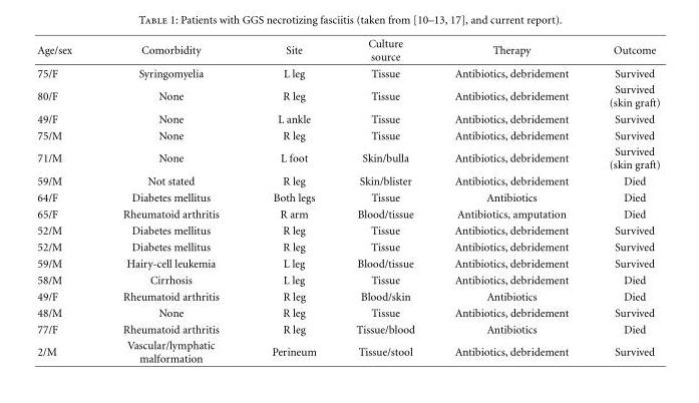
<table><thead><tr><td>Age/sex</td><td>Comorbidity</td><td>Site</td><td>Culture source</td><td>Therapy</td><td>Outcome</td></tr></thead><tbody><tr><td>75/F</td><td>Syringomyelia</td><td>L leg</td><td>Tissue</td><td>Antibiotics, debridement</td><td>Survived</td></tr><tr><td>80/F</td><td>None</td><td>R leg</td><td>Tissue</td><td>Antibiotics, debridement</td><td>Survived (skin graft)</td></tr><tr><td>49/F</td><td>None</td><td>L ankle</td><td>Tissue</td><td>Antibiotics, debridement</td><td>Survived</td></tr><tr><td>75/M</td><td>None</td><td>R leg</td><td>Tissue</td><td>Antibiotics, debridement</td><td>Survived</td></tr><tr><td>71/M</td><td>None</td><td>L foot</td><td>Skin/bulla</td><td>Antibiotics, debridement</td><td>Survived (skin graft)</td></tr><tr><td>59/M</td><td>Not stated</td><td>R leg</td><td>Skin/blister</td><td>Antibiotics, debridement</td><td>Died</td></tr><tr><td>64/F</td><td>Diabetes mellitus</td><td>Both legs</td><td>Tissue</td><td>Antibiotics</td><td>Died</td></tr><tr><td>65/F</td><td>Rheumatoid arthritis</td><td>R arm</td><td>Blood/tissue</td><td>Antibiotics, amputation</td><td>Died</td></tr><tr><td>52/M</td><td>Diabetes mellitus</td><td>R leg</td><td>Tissue</td><td>Antibiotics, debridement</td><td>Survived</td></tr><tr><td>52/M</td><td>Diabetes mellitus</td><td>R leg</td><td>Tissue</td><td>Antibiotics, debridement</td><td>Survived</td></tr><tr><td>59/M</td><td>Hairy-cell leukemia</td><td>L leg</td><td>Blood/tissue</td><td>Antibiotics, debridement</td><td>Survived</td></tr><tr><td>58/M</td><td>Cirrhosis</td><td>L leg</td><td>Tissue</td><td>Antibiotics, debridement</td><td>Died</td></tr><tr><td>49/F</td><td>Rheumatoid arthritis</td><td>R leg</td><td>Blood/skin</td><td>Antibiotics</td><td>Died</td></tr><tr><td>48/M</td><td>None</td><td>R leg</td><td>Tissue</td><td>Antibiotics, debridement</td><td>Survived</td></tr><tr><td>77/F</td><td>Rheumatoid arthritis</td><td>R leg</td><td>Tissue/blood</td><td>Antibiotics</td><td>Died</td></tr><tr><td>2/M</td><td>Vascular/lymphatic malformation</td><td>Perineum</td><td>Tissue/stool</td><td>Antibiotics, debridement</td><td>Survived</td></tr></tbody></table>